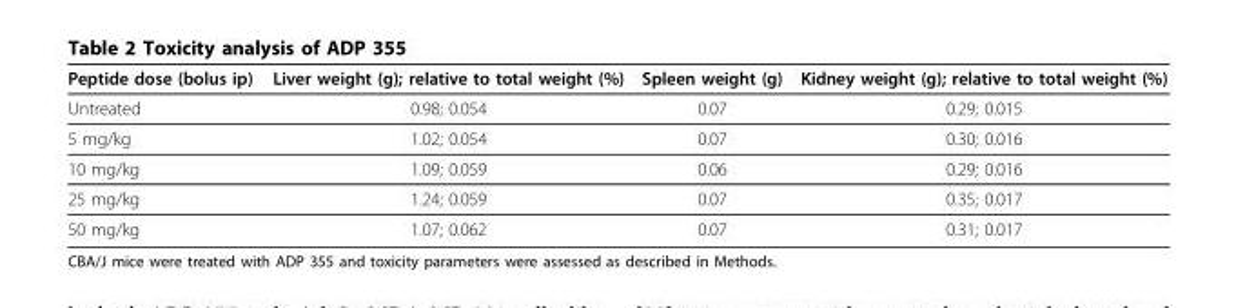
<table><thead><tr><td>Peptide dose (bolus ip)</td><td>Liver weight (g); relative to total weight (%)</td><td>Spleen weight (g)</td><td>Kidney weight (g); relative to total weight (%)</td></tr></thead><tbody><tr><td>Untreated</td><td>0.98; 0.054</td><td>0.07</td><td>0.29; 0.015</td></tr><tr><td>5 mg/kg</td><td>1.02; 0.054</td><td>0.07</td><td>0.30; 0.016</td></tr><tr><td>10 mg/kg</td><td>1.09; 0.059</td><td>0.06</td><td>0.29; 0.016</td></tr><tr><td>25 mg/kg</td><td>1.24; 0.059</td><td>0.07</td><td>0.35; 0.017</td></tr><tr><td>50 mg/kg</td><td>1.07; 0.062</td><td>0.07</td><td>0.31; 0.017</td></tr></tbody></table>